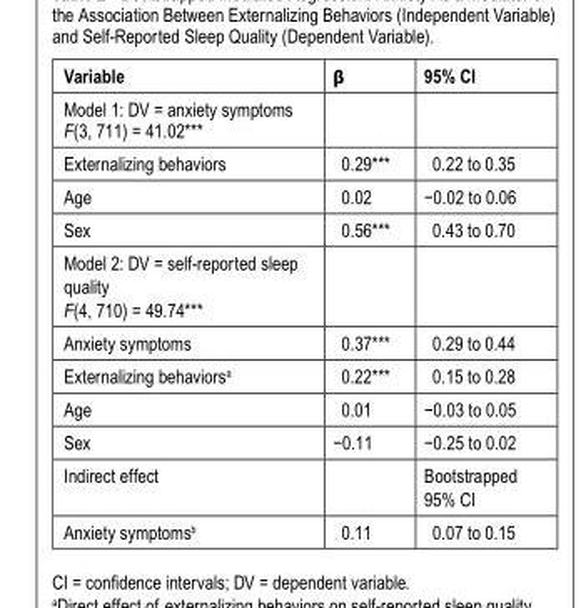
<table><thead><tr><td>Variable</td><td>β</td><td>95% CI</td></tr></thead><tbody><tr><td colspan="3">Model 1: DV = anxiety symptoms F(3, 711) = 41.02***</td></tr><tr><td>Externalizing behaviors</td><td>0.29***</td><td>0.22 to 0.35</td></tr><tr><td>Age</td><td>0.02</td><td>−0.02 to 0.06</td></tr><tr><td>Sex</td><td>0.56***</td><td>0.43 to 0.70</td></tr><tr><td colspan="3">Model 2: DV = self-reported sleep quality F(4, 710) = 49.74***</td></tr><tr><td>Anxiety symptoms</td><td>0.37***</td><td>0.29 to 0.44</td></tr><tr><td>Externalizing behaviors<sup>a</sup></td><td>0.22***</td><td>0.15 to 0.28</td></tr><tr><td>Age</td><td>0.01</td><td>−0.03 to 0.05</td></tr><tr><td>Sex</td><td>−0.11</td><td>−0.25 to 0.02</td></tr><tr><td>Indirect effect</td><td></td><td>Bootstrapped 95% CI</td></tr><tr><td>Anxiety symptoms<sup>b</sup></td><td>0.11</td><td>0.07 to 0.15</td></tr></tbody></table>